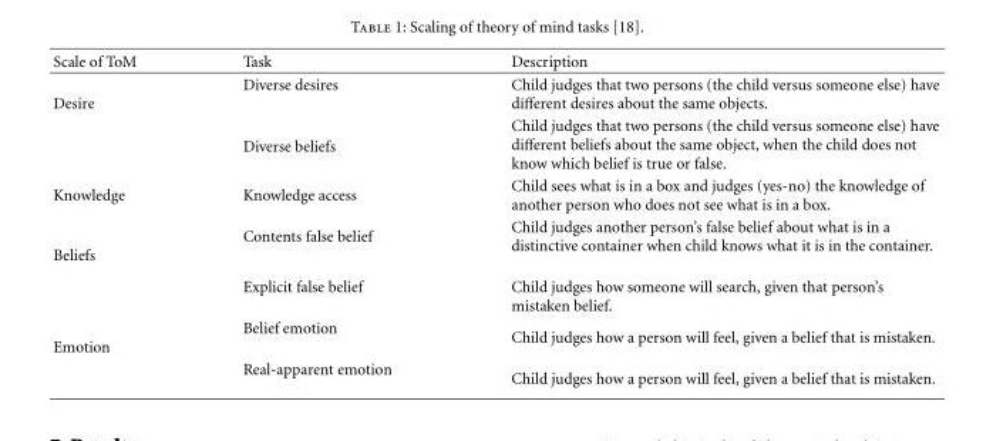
<table><thead><tr><td>Scale of ToM</td><td>Task</td><td>Description</td></tr></thead><tbody><tr><td rowspan="2">Desire</td><td>Diverse desires</td><td>Child judges that two persons (the child versus someone else) have different desires about the same objects.</td></tr><tr><td>Diverse beliefs</td><td>Child judges that two persons (the child versus someone else) have different beliefs about the same object, when the child does not know which belief is true or false.</td></tr><tr><td>Knowledge</td><td>Knowledge access</td><td>Child sees what is in a box and judges (yes-no) the knowledge of another person who does not see what is in a box.</td></tr><tr><td rowspan="2">Beliefs</td><td>Contents false belief</td><td>Child judges another person’s false belief about what is in a distinctive container when child knows what it is in the container.</td></tr><tr><td>Explicit false belief</td><td>Child judges how someone will search, given that person’s mistaken belief.</td></tr><tr><td rowspan="2">Emotion</td><td>Belief emotion</td><td>Child judges how a person will feel, given a belief that is mistaken.</td></tr><tr><td>Real-apparent emotion</td><td>Child judges how a person will feel, given a belief that is mistaken.</td></tr></tbody></table>